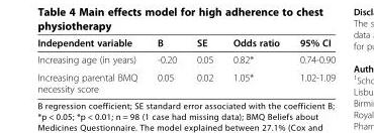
<table><thead><tr><td>Independent variable</td><td>B</td><td>SE</td><td>Odds ratio</td><td>95% CI</td></tr></thead><tbody><tr><td>Increasing age (in years)</td><td>-0.20</td><td>0.05</td><td>0.82*</td><td>0.74-0.90</td></tr><tr><td>Increasing parental BMQ necessity score</td><td>0.05</td><td>0.02</td><td>1.05*</td><td>1.02-1.09</td></tr></tbody></table>